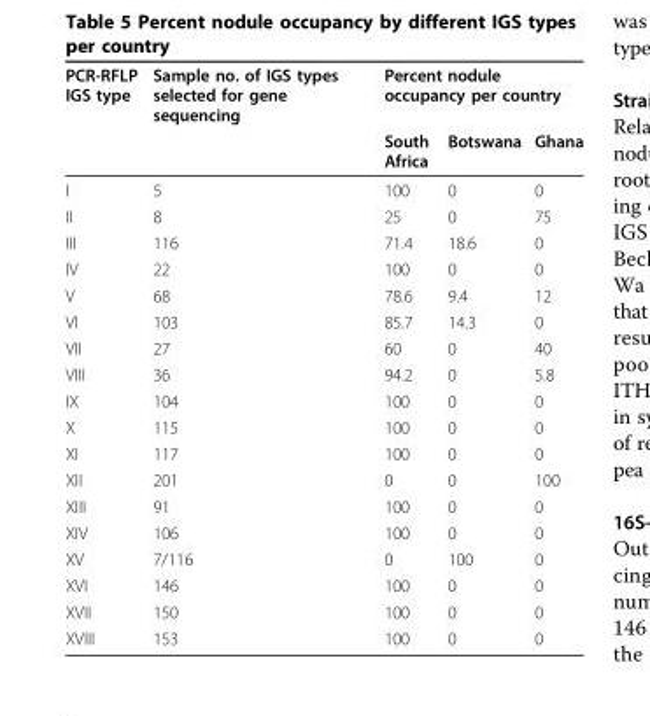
<table><thead><tr><td rowspan="2">PCR-RFLP IGS type</td><td rowspan="2">Sample no. of IGS types selected for gene sequencing</td><td colspan="3">Percent nodule occupancy per country</td></tr><tr><td>South Africa</td><td>Botswana</td><td>Ghana</td></tr></thead><tbody><tr><td>I</td><td>5</td><td>100</td><td>0</td><td>0</td></tr><tr><td>II</td><td>8</td><td>25</td><td>0</td><td>75</td></tr><tr><td>III</td><td>116</td><td>71.4</td><td>18.6</td><td>0</td></tr><tr><td>IV</td><td>22</td><td>100</td><td>0</td><td>0</td></tr><tr><td>V</td><td>68</td><td>78.6</td><td>9.4</td><td>12</td></tr><tr><td>VI</td><td>103</td><td>85.7</td><td>14.3</td><td>0</td></tr><tr><td>VII</td><td>27</td><td>60</td><td>0</td><td>40</td></tr><tr><td>VIII</td><td>36</td><td>94.2</td><td>0</td><td>5.8</td></tr><tr><td>IX</td><td>104</td><td>100</td><td>0</td><td>0</td></tr><tr><td>X</td><td>115</td><td>100</td><td>0</td><td>0</td></tr><tr><td>XI</td><td>117</td><td>100</td><td>0</td><td>0</td></tr><tr><td>XII</td><td>201</td><td>0</td><td>0</td><td>100</td></tr><tr><td>XIII</td><td>91</td><td>100</td><td>0</td><td>0</td></tr><tr><td>XIV</td><td>106</td><td>100</td><td>0</td><td>0</td></tr><tr><td>XV</td><td>7/116</td><td>0</td><td>100</td><td>0</td></tr><tr><td>XVI</td><td>146</td><td>100</td><td>0</td><td>0</td></tr><tr><td>XVII</td><td>150</td><td>100</td><td>0</td><td>0</td></tr><tr><td>XVIII</td><td>153</td><td>100</td><td>0</td><td>0</td></tr></tbody></table>